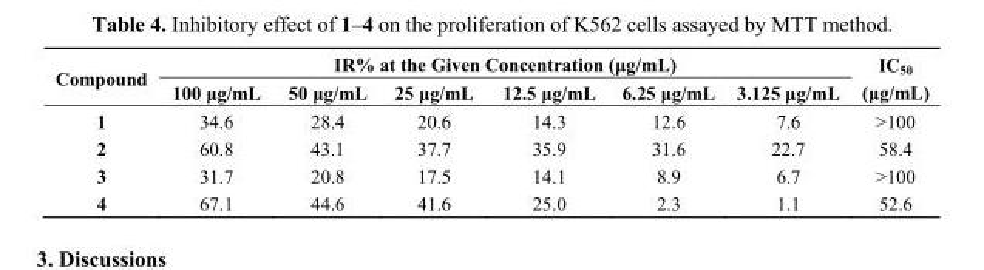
<table><thead><tr><td rowspan="2">Compound</td><td colspan="6">IR% at the Given Concentration (μg/mL)</td><td rowspan="2">IC<sub>50</sub> (μg/mL)</td></tr><tr><td>100 μg/mL</td><td>50 μg/mL</td><td>25 μg/mL</td><td>12.5 μg/mL</td><td>6.25 μg/mL</td><td>3.125 μg/mL</td></tr></thead><tbody><tr><td>1</td><td>34.6</td><td>28.4</td><td>20.6</td><td>14.3</td><td>12.6</td><td>7.6</td><td>&gt;100</td></tr><tr><td>2</td><td>60.8</td><td>43.1</td><td>37.7</td><td>35.9</td><td>31.6</td><td>22.7</td><td>58.4</td></tr><tr><td>3</td><td>31.7</td><td>20.8</td><td>17.5</td><td>14.1</td><td>8.9</td><td>6.7</td><td>&gt;100</td></tr><tr><td>4</td><td>67.1</td><td>44.6</td><td>41.6</td><td>25.0</td><td>2.3</td><td>1.1</td><td>52.6</td></tr></tbody></table>